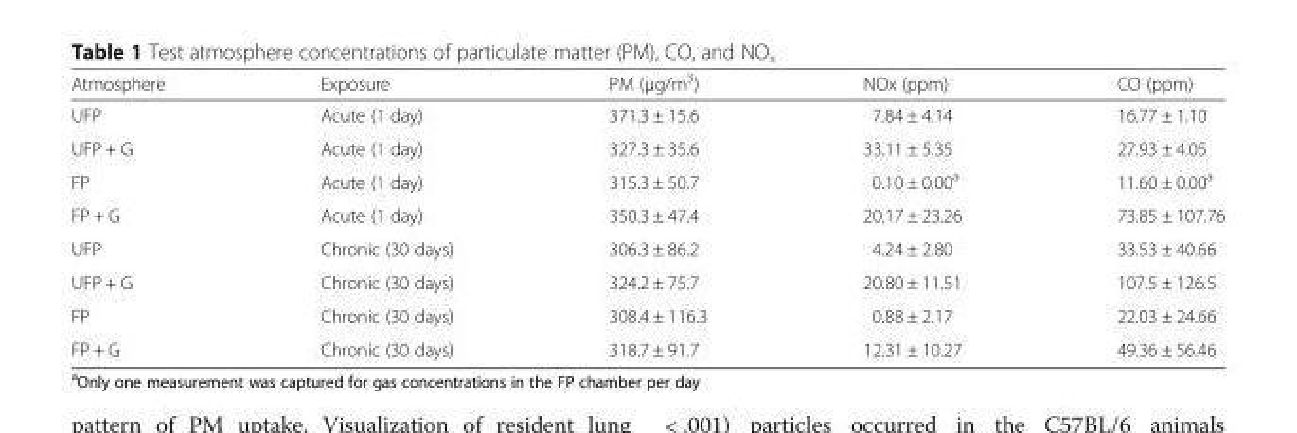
<table><thead><tr><td>Atmosphere</td><td>Exposure</td><td>PM (μg/m<sup>3</sup>)</td><td>NOx (ppm)</td><td>CO (ppm)</td></tr></thead><tbody><tr><td>UFP</td><td>Acute (1 day)</td><td>371.3 ± 15.6</td><td>7.84 ± 4.14</td><td>16.77 ± 1.10</td></tr><tr><td>UFP + G</td><td>Acute (1 day)</td><td>327.3 ± 35.6</td><td>33.11 ± 5.35</td><td>27.93 ± 4.05</td></tr><tr><td>FP</td><td>Acute (1 day)</td><td>315.3 ± 50.7</td><td>0.10 ± 0.00<sup>a</sup></td><td>11.60 ± 0.00<sup>a</sup></td></tr><tr><td>FP + G</td><td>Acute (1 day)</td><td>350.3 ± 47.4</td><td>20.17 ± 23.26</td><td>73.85 ± 107.76</td></tr><tr><td>UFP</td><td>Chronic (30 days)</td><td>306.3 ± 86.2</td><td>4.24 ± 2.80</td><td>33.53 ± 40.66</td></tr><tr><td>UFP + G</td><td>Chronic (30 days)</td><td>324.2 ± 75.7</td><td>20.80 ± 11.51</td><td>107.5 ± 126.5</td></tr><tr><td>FP</td><td>Chronic (30 days)</td><td>308.4 ± 116.3</td><td>0.88 ± 2.17</td><td>22.03 ± 24.66</td></tr><tr><td>FP + G</td><td>Chronic (30 days)</td><td>318.7 ± 91.7</td><td>12.31 ± 10.27</td><td>49.36 ± 56.46</td></tr></tbody></table>